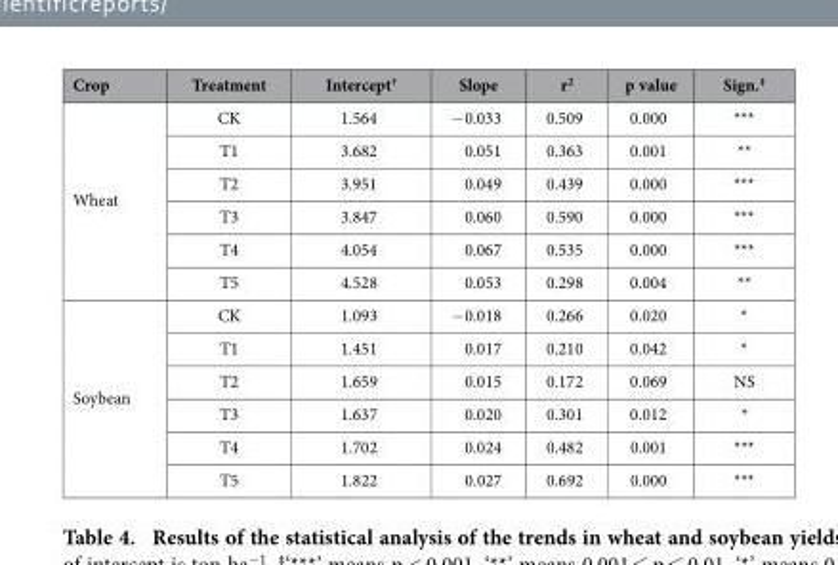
<table><thead><tr><td>Crop</td><td>Treatment</td><td>Intercept†</td><td>Slope</td><td>r<sup>2</sup></td><td>p value</td><td>Sign.‡</td></tr></thead><tbody><tr><td rowspan="6">Wheat</td><td>CK</td><td>1.564</td><td>− 0.033</td><td>0.509</td><td>0.000</td><td>***</td></tr><tr><td>T1</td><td>3.682</td><td>0.051</td><td>0.363</td><td>0.001</td><td>**</td></tr><tr><td>T2</td><td>3.951</td><td>0.049</td><td>0.439</td><td>0.000</td><td>***</td></tr><tr><td>T3</td><td>3.847</td><td>0.060</td><td>0.590</td><td>0.000</td><td>***</td></tr><tr><td>T4</td><td>4.054</td><td>0.067</td><td>0.535</td><td>0.000</td><td>***</td></tr><tr><td>T5</td><td>4.528</td><td>0.053</td><td>0.298</td><td>0.004</td><td>**</td></tr><tr><td rowspan="6">Soybean</td><td>CK</td><td>1.093</td><td>− 0.018</td><td>0.266</td><td>0.020</td><td>*</td></tr><tr><td>T1</td><td>1.451</td><td>0.017</td><td>0.210</td><td>0.042</td><td>*</td></tr><tr><td>T2</td><td>1.659</td><td>0.015</td><td>0.172</td><td>0.069</td><td>NS</td></tr><tr><td>T3</td><td>1.637</td><td>0.020</td><td>0.301</td><td>0.012</td><td>*</td></tr><tr><td>T4</td><td>1.702</td><td>0.024</td><td>0.482</td><td>0.001</td><td>***</td></tr><tr><td>T5</td><td>1.822</td><td>0.027</td><td>0.692</td><td>0.000</td><td>***</td></tr></tbody></table>